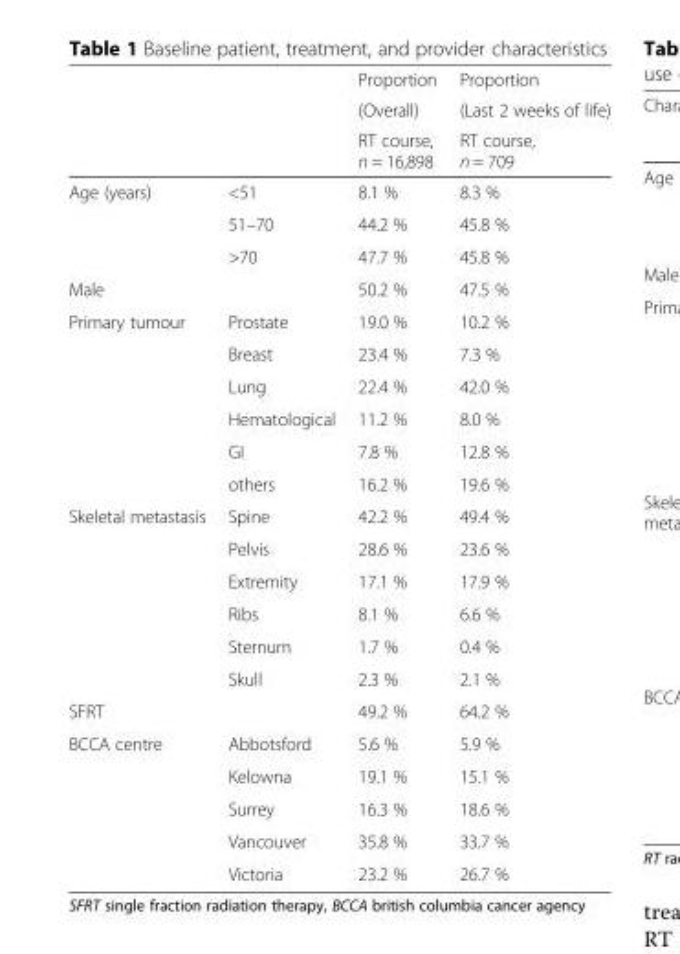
<table><thead><tr><td rowspan="3"></td><td rowspan="3"></td><td rowspan="3">Proportion (Overall) RT course, n = 16,898</td><td rowspan="3">Proportion (Last 2 weeks of life) RT course, n = 709</td></tr><tr></tr><tr></tr></thead><tbody><tr><td rowspan="3">Age (years)</td><td>&lt;51</td><td>8.1 %</td><td>8.3 %</td></tr><tr><td>51–70</td><td>44.2 %</td><td>45.8 %</td></tr><tr><td>&gt;70</td><td>47.7 %</td><td>45.8 %</td></tr><tr><td colspan="2">Male</td><td>50.2 %</td><td>47.5 %</td></tr><tr><td rowspan="6">Primary tumour</td><td>Prostate</td><td>19.0 %</td><td>10.2 %</td></tr><tr><td>Breast</td><td>23.4 %</td><td>7.3 %</td></tr><tr><td>Lung</td><td>22.4 %</td><td>42.0 %</td></tr><tr><td>Hematological</td><td>11.2 %</td><td>8.0 %</td></tr><tr><td>GI</td><td>7.8 %</td><td>12.8 %</td></tr><tr><td>others</td><td>16.2 %</td><td>19.6 %</td></tr><tr><td rowspan="6">Skeletal metastasis</td><td>Spine</td><td>42.2 %</td><td>49.4 %</td></tr><tr><td>Pelvis</td><td>28.6 %</td><td>23.6 %</td></tr><tr><td>Extremity</td><td>17.1 %</td><td>17.9 %</td></tr><tr><td>Ribs</td><td>8.1 %</td><td>6.6 %</td></tr><tr><td>Sternum</td><td>1.7 %</td><td>0.4 %</td></tr><tr><td>Skull</td><td>2.3 %</td><td>2.1 %</td></tr><tr><td colspan="2">SFRT</td><td>49.2 %</td><td>64.2 %</td></tr><tr><td rowspan="5">BCCA centre</td><td>Abbotsford</td><td>5.6 %</td><td>5.9 %</td></tr><tr><td>Kelowna</td><td>19.1 %</td><td>15.1 %</td></tr><tr><td>Surrey</td><td>16.3 %</td><td>18.6 %</td></tr><tr><td>Vancouver</td><td>35.8 %</td><td>33.7 %</td></tr><tr><td>Victoria</td><td>23.2 %</td><td>26.7 %</td></tr></tbody></table>